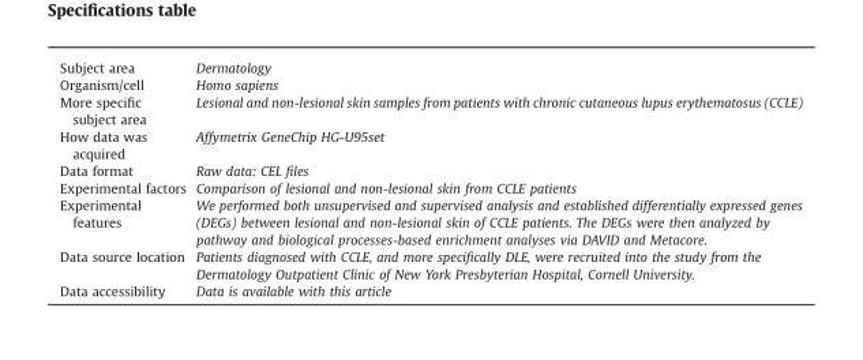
<table><thead><tr><td>Subject area</td><td>Dermatology</td></tr></thead><tbody><tr><td>Organism/cell</td><td>Homo sapiens</td></tr><tr><td>More specific subject area</td><td>Lesional and non-lesional skin samples from patients with chronic cutaneous lupus erythematosus (CCLE)</td></tr><tr><td>How data was acquired</td><td>Affymetrix GeneChip HG-U95set</td></tr><tr><td>Data format</td><td>Raw data: CEL files</td></tr><tr><td>Experimental factors</td><td>Comparison of lesional and non-lesional skin from CCLE patients</td></tr><tr><td>Experimental features</td><td>We performed both unsupervised and supervised analysis and established differentially expressed genes (DEGs) between lesional and non-lesional skin of CCLE patients. The DEGs were then analyzed by pathway and biological processes-based enrichment analyses via DAVID and Metacore.</td></tr><tr><td>Data source location</td><td>Patients diagnosed with CCLE, and more specifically DLE, were recruited into the study from the Dermatology Outpatient Clinic of New York Presbyterian Hospital, Cornell University.</td></tr><tr><td>Data accessibility</td><td>Data is available with this article</td></tr></tbody></table>